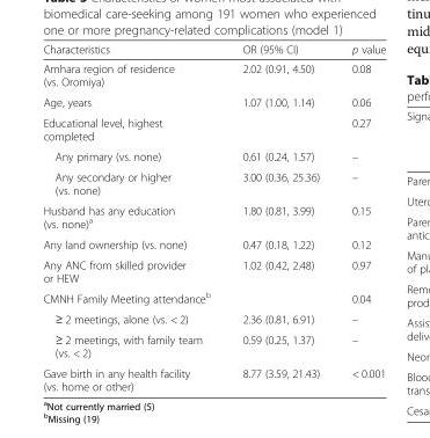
<table><thead><tr><td>Characteristics</td><td>OR (95% CI)</td><td>p value</td></tr></thead><tbody><tr><td>Amhara region of residence (vs. Oromiya)</td><td>2.02 (0.91, 4.50)</td><td>0.08</td></tr><tr><td>Age, years</td><td>1.07 (1.00, 1.14)</td><td>0.06</td></tr><tr><td>Educational level, highest completed</td><td></td><td>0.27</td></tr><tr><td>Any primary (vs. none)</td><td>0.61 (0.24, 1.57)</td><td>–</td></tr><tr><td>Any secondary or higher (vs. none)</td><td>3.00 (0.36, 25.36)</td><td>–</td></tr><tr><td>Husband has any education (vs. none)<sup>a</sup></td><td>1.80 (0.81, 3.99)</td><td>0.15</td></tr><tr><td>Any land ownership (vs. none)</td><td>0.47 (0.18, 1.22)</td><td>0.12</td></tr><tr><td>Any ANC from skilled provider or HEW</td><td>1.02 (0.42, 2.48)</td><td>0.97</td></tr><tr><td>CMNH Family Meeting attendance<sup>b</sup></td><td></td><td>0.04</td></tr><tr><td>≥ 2 meetings, alone (vs. &lt; 2)</td><td>2.36 (0.81, 6.91)</td><td>–</td></tr><tr><td>≥ 2 meetings, with family team (vs. &lt; 2)</td><td>0.59 (0.25, 1.37)</td><td>–</td></tr><tr><td>Gave birth in any health facility (vs. home or other)</td><td>8.77 (3.59, 21.43)</td><td>&lt; 0.001</td></tr></tbody></table>